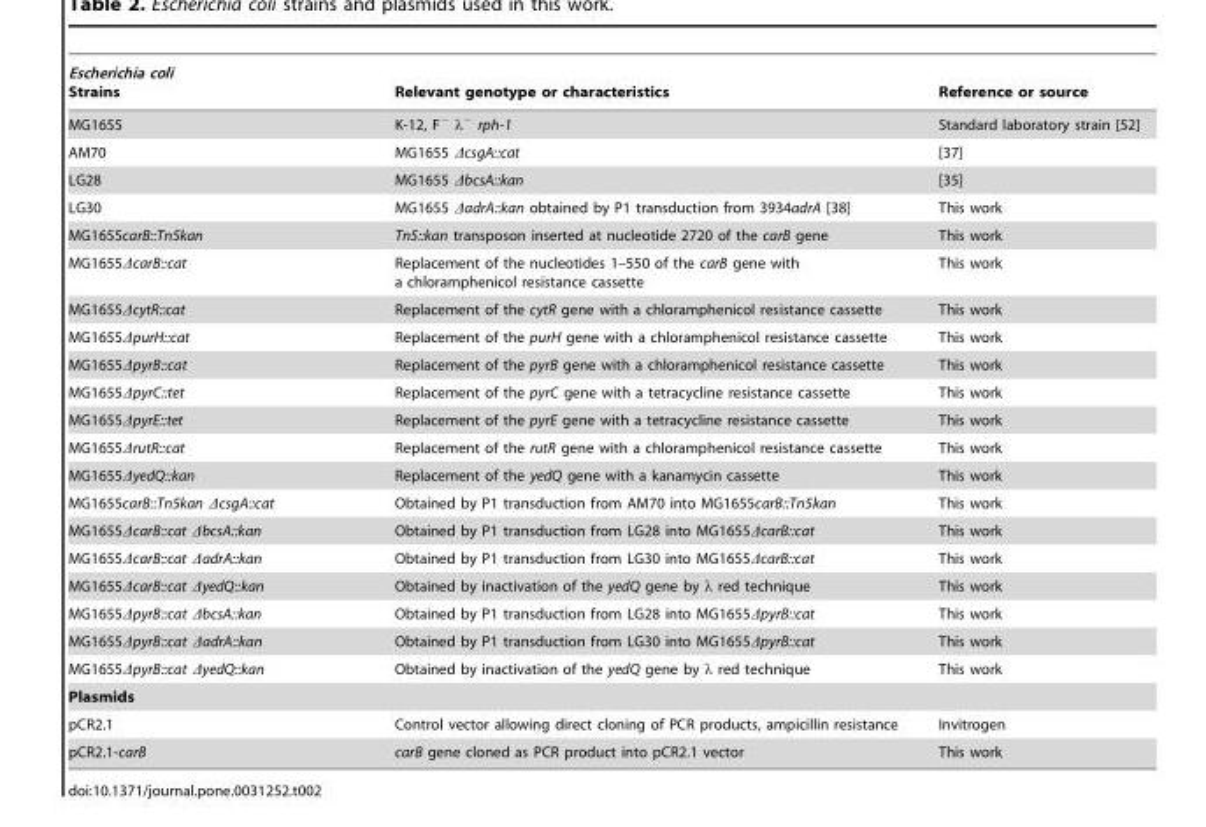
<table><thead><tr><td>Escherichia coli Strains</td><td>Relevant genotype or characteristics</td><td>Reference or source</td></tr></thead><tbody><tr><td>MG1655</td><td>K-12, F<sup>−</sup> λ<sup>−</sup> rph-1</td><td>Standard laboratory strain [52]</td></tr><tr><td>AM70</td><td>MG1655 ΔcsgA::cat</td><td>[37]</td></tr><tr><td>LG28</td><td>MG1655 ΔbcsA::kan</td><td>[35]</td></tr><tr><td>LG30</td><td>MG1655 ΔadrA::kan obtained by P1 transduction from 3934adrA [38]</td><td>This work</td></tr><tr><td>MG1655carB::Tn5kan</td><td>Tn5::kan transposon inserted at nucleotide 2720 of the carB gene</td><td>This work</td></tr><tr><td>MG1655ΔcarB::cat</td><td>Replacement of the nucleotides 1–550 of the carB gene with a chloramphenicol resistance cassette</td><td>This work</td></tr><tr><td>MG1655ΔcytR::cat</td><td>Replacement of the cytR gene with a chloramphenicol resistance cassette</td><td>This work</td></tr><tr><td>MG1655ΔpurH::cat</td><td>Replacement of the purH gene with a chloramphenicol resistance cassette</td><td>This work</td></tr><tr><td>MG1655ΔpyrB::cat</td><td>Replacement of the pyrB gene with a chloramphenicol resistance cassette</td><td>This work</td></tr><tr><td>MG1655ΔpyrC::tet</td><td>Replacement of the pyrC gene with a tetracycline resistance cassette</td><td>This work</td></tr><tr><td>MG1655ΔpyrE::tet</td><td>Replacement of the pyrE gene with a tetracycline resistance cassette</td><td>This work</td></tr><tr><td>MG1655ΔrutR::cat</td><td>Replacement of the rutR gene with a chloramphenicol resistance cassette</td><td>This work</td></tr><tr><td>MG1655ΔyedQ::kan</td><td>Replacement of the yedQ gene with a kanamycin cassette</td><td>This work</td></tr><tr><td>MG1655carB::Tn5kan ΔcsgA::cat</td><td>Obtained by P1 transduction from AM70 into MG1655carB::Tn5kan</td><td>This work</td></tr><tr><td>MG1655ΔcarB::cat ΔbcsA::kan</td><td>Obtained by P1 transduction from LG28 into MG1655ΔcarB::cat</td><td>This work</td></tr><tr><td>MG1655ΔcarB::cat ΔadrA::kan</td><td>Obtained by P1 transduction from LG30 into MG1655ΔcarB::cat</td><td>This work</td></tr><tr><td>MG1655ΔcarB::cat ΔyedQ::kan</td><td>Obtained by inactivation of the yedQ gene by λ red technique</td><td>This work</td></tr><tr><td>MG1655ΔpyrB::cat ΔbcsA::kan</td><td>Obtained by P1 transduction from LG28 into MG1655ΔpyrB::cat</td><td>This work</td></tr><tr><td>MG1655ΔpyrB::cat ΔadrA::kan</td><td>Obtained by P1 transduction from LG30 into MG1655ΔpyrB::cat</td><td>This work</td></tr><tr><td>MG1655ΔpyrB::cat ΔyedQ::kan</td><td>Obtained by inactivation of the yedQ gene by λ red technique</td><td>This work</td></tr><tr><td colspan="3">Plasmids</td></tr><tr><td>pCR2.1</td><td>Control vector allowing direct cloning of PCR products, ampicillin resistance</td><td>Invitrogen</td></tr><tr><td>pCR2.1-carB</td><td>carB gene cloned as PCR product into pCR2.1 vector</td><td>This work</td></tr></tbody></table>